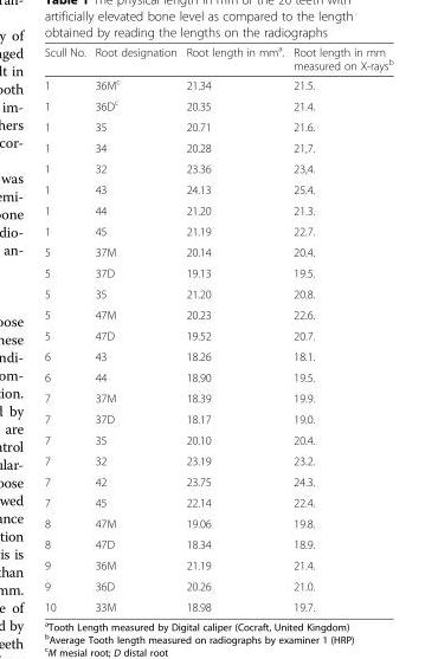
<table><thead><tr><td>Scull No.</td><td>Root designation</td><td>Root length in mm<sup>a</sup>.</td><td>Root length in mm measured on X-rays<sup>b</sup></td></tr></thead><tbody><tr><td>1</td><td>36M<sup>c</sup></td><td>21.34</td><td>21.5.</td></tr><tr><td>1</td><td>36D<sup>c</sup></td><td>20.35</td><td>21.4.</td></tr><tr><td>1</td><td>35</td><td>20.71</td><td>21.6.</td></tr><tr><td>1</td><td>34</td><td>20.28</td><td>21,7.</td></tr><tr><td>1</td><td>32</td><td>23.36</td><td>23,4.</td></tr><tr><td>1</td><td>43</td><td>24.13</td><td>25.4.</td></tr><tr><td>1</td><td>44</td><td>21.20</td><td>21.3.</td></tr><tr><td>1</td><td>45</td><td>21.19</td><td>22.7.</td></tr><tr><td>5</td><td>37M</td><td>20.14</td><td>20.4.</td></tr><tr><td>5</td><td>37D</td><td>19.13</td><td>19.5.</td></tr><tr><td>5</td><td>35</td><td>21.20</td><td>20.8.</td></tr><tr><td>5</td><td>47M</td><td>20.23</td><td>22.6.</td></tr><tr><td>5</td><td>47D</td><td>19.52</td><td>20.7.</td></tr><tr><td>6</td><td>43</td><td>18.26</td><td>18.1.</td></tr><tr><td>6</td><td>44</td><td>18.90</td><td>19.5.</td></tr><tr><td>7</td><td>37M</td><td>18.39</td><td>19.9.</td></tr><tr><td>7</td><td>37D</td><td>18.17</td><td>19.0.</td></tr><tr><td>7</td><td>35</td><td>20.10</td><td>20.4.</td></tr><tr><td>7</td><td>32</td><td>23.19</td><td>23.2.</td></tr><tr><td>7</td><td>42</td><td>23.75</td><td>24.3.</td></tr><tr><td>7</td><td>45</td><td>22.14</td><td>22.4.</td></tr><tr><td>8</td><td>47M</td><td>19.06</td><td>19.8.</td></tr><tr><td>8</td><td>47D</td><td>18.34</td><td>18.9.</td></tr><tr><td>9</td><td>36M</td><td>21.19</td><td>21.4.</td></tr><tr><td>9</td><td>36D</td><td>20.26</td><td>21.0.</td></tr><tr><td>10</td><td>33M</td><td>18.98</td><td>19.7.</td></tr></tbody></table>